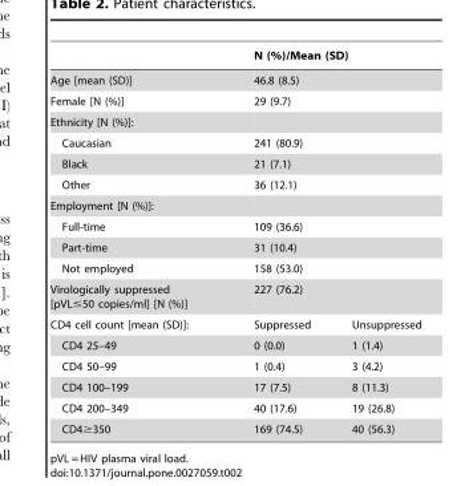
<table><thead><tr><td></td><td colspan="2">N (%)/Mean (SD)</td></tr></thead><tbody><tr><td>Age [mean (SD)]</td><td colspan="2">46.8 (8.5)</td></tr><tr><td>Female [N (%)]</td><td colspan="2">29 (9.7)</td></tr><tr><td colspan="3">Ethnicity [N (%)]:</td></tr><tr><td>Caucasian</td><td colspan="2">241 (80.9)</td></tr><tr><td>Black</td><td colspan="2">21 (7.1)</td></tr><tr><td>Other</td><td colspan="2">36 (12.1)</td></tr><tr><td colspan="3">Employment [N (%)]:</td></tr><tr><td>Full-time</td><td colspan="2">109 (36.6)</td></tr><tr><td>Part-time</td><td colspan="2">31 (10.4)</td></tr><tr><td>Not employed</td><td colspan="2">158 (53.0)</td></tr><tr><td>Virologically suppressed [pVL≤50 copies/ml] [N (%)]</td><td colspan="2">227 (76.2)</td></tr><tr><td>CD4 cell count [mean (SD)]:</td><td>Suppressed</td><td>Unsuppressed</td></tr><tr><td>CD4 25–49</td><td>0 (0.0)</td><td>1 (1.4)</td></tr><tr><td>CD4 50–99</td><td>1 (0.4)</td><td>3 (4.2)</td></tr><tr><td>CD4 100–199</td><td>17 (7.5)</td><td>8 (11.3)</td></tr><tr><td>CD4 200–349</td><td>40 (17.6)</td><td>19 (26.8)</td></tr><tr><td>CD4≥350</td><td>169 (74.5)</td><td>40 (56.3)</td></tr></tbody></table>